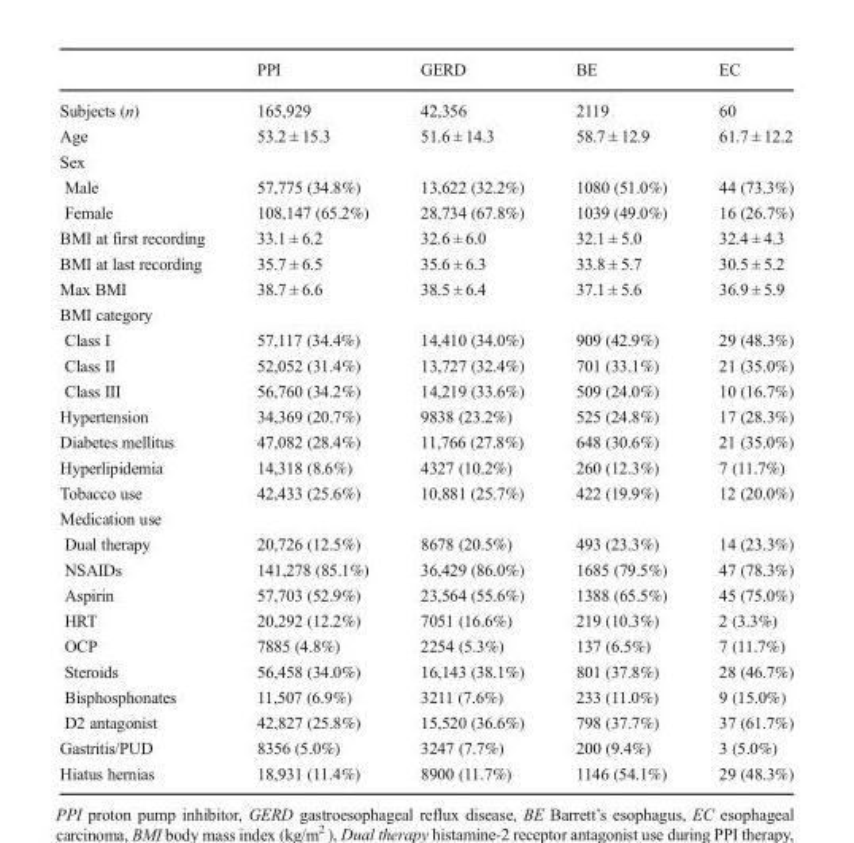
<table><thead><tr><td></td><td>PPI</td><td>GERD</td><td>BE</td><td>EC</td></tr></thead><tbody><tr><td>Subjects (n)</td><td>165,929</td><td>42,356</td><td>2119</td><td>60</td></tr><tr><td>Age</td><td>53.2 ± 15.3</td><td>51.6 ± 14.3</td><td>58.7 ± 12.9</td><td>61.7 ± 12.2</td></tr><tr><td colspan="5">Sex</td></tr><tr><td>Male</td><td>57,775 (34.8%)</td><td>13,622 (32.2%)</td><td>1080 (51.0%)</td><td>44 (73.3%)</td></tr><tr><td>Female</td><td>108,147 (65.2%)</td><td>28,734 (67.8%)</td><td>1039 (49.0%)</td><td>16 (26.7%)</td></tr><tr><td>BMI at first recording</td><td>33.1 ± 6.2</td><td>32.6 ± 6.0</td><td>32.1 ± 5.0</td><td>32.4 ± 4.3</td></tr><tr><td>BMI at last recording</td><td>35.7 ± 6.5</td><td>35.6 ± 6.3</td><td>33.8 ± 5.7</td><td>30.5 ± 5.2</td></tr><tr><td>Max BMI</td><td>38.7 ± 6.6</td><td>38.5 ± 6.4</td><td>37.1 ± 5.6</td><td>36.9 ± 5.9</td></tr><tr><td colspan="5">BMI category</td></tr><tr><td>Class I</td><td>57,117 (34.4%)</td><td>14,410 (34.0%)</td><td>909 (42.9%)</td><td>29 (48.3%)</td></tr><tr><td>Class II</td><td>52,052 (31.4%)</td><td>13,727 (32.4%)</td><td>701 (33.1%)</td><td>21 (35.0%)</td></tr><tr><td>Class III</td><td>56,760 (34.2%)</td><td>14,219 (33.6%)</td><td>509 (24.0%)</td><td>10 (16.7%)</td></tr><tr><td>Hypertension</td><td>34,369 (20.7%)</td><td>9838 (23.2%)</td><td>525 (24.8%)</td><td>17 (28.3%)</td></tr><tr><td>Diabetes mellitus</td><td>47,082 (28.4%)</td><td>11,766 (27.8%)</td><td>648 (30.6%)</td><td>21 (35.0%)</td></tr><tr><td>Hyperlipidemia</td><td>14,318 (8.6%)</td><td>4327 (10.2%)</td><td>260 (12.3%)</td><td>7 (11.7%)</td></tr><tr><td>Tobacco use</td><td>42,433 (25.6%)</td><td>10,881 (25.7%)</td><td>422 (19.9%)</td><td>12 (20.0%)</td></tr><tr><td colspan="5">Medication use</td></tr><tr><td>Dual therapy</td><td>20,726 (12.5%)</td><td>8678 (20.5%)</td><td>493 (23.3%)</td><td>14 (23.3%)</td></tr><tr><td>NSAIDs</td><td>141,278 (85.1%)</td><td>36,429 (86.0%)</td><td>1685 (79.5%)</td><td>47 (78.3%)</td></tr><tr><td>Aspirin</td><td>57,703 (52.9%)</td><td>23,564 (55.6%)</td><td>1388 (65.5%)</td><td>45 (75.0%)</td></tr><tr><td>HRT</td><td>20,292 (12.2%)</td><td>7051 (16.6%)</td><td>219 (10.3%)</td><td>2 (3.3%)</td></tr><tr><td>OCP</td><td>7885 (4.8%)</td><td>2254 (5.3%)</td><td>137 (6.5%)</td><td>7 (11.7%)</td></tr><tr><td>Steroids</td><td>56,458 (34.0%)</td><td>16,143 (38.1%)</td><td>801 (37.8%)</td><td>28 (46.7%)</td></tr><tr><td>Bisphosphonates</td><td>11,507 (6.9%)</td><td>3211 (7.6%)</td><td>233 (11.0%)</td><td>9 (15.0%)</td></tr><tr><td>D2 antagonist</td><td>42,827 (25.8%)</td><td>15,520 (36.6%)</td><td>798 (37.7%)</td><td>37 (61.7%)</td></tr><tr><td>Gastritis/PUD</td><td>8356 (5.0%)</td><td>3247 (7.7%)</td><td>200 (9.4%)</td><td>3 (5.0%)</td></tr><tr><td>Hiatus hernias</td><td>18,931 (11.4%)</td><td>8900 (11.7%)</td><td>1146 (54.1%)</td><td>29 (48.3%)</td></tr></tbody></table>